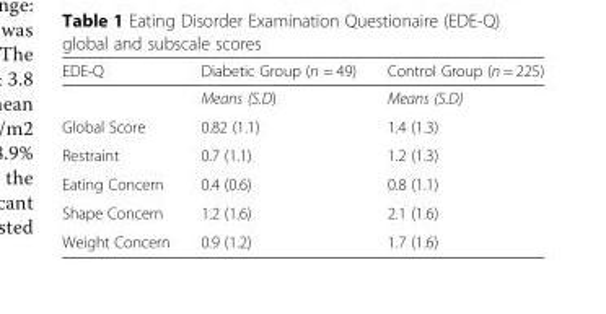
<table><thead><tr><td>EDE-Q</td><td>Diabetic Group (n = 49)</td><td>Control Group (n = 225)</td></tr></thead><tbody><tr><td></td><td>Means (S.D)</td><td>Means (S.D)</td></tr><tr><td>Global Score</td><td>0.82 (1.1)</td><td>1.4 (1.3)</td></tr><tr><td>Restraint</td><td>0.7 (1.1)</td><td>1.2 (1.3)</td></tr><tr><td>Eating Concern</td><td>0.4 (0.6)</td><td>0.8 (1.1)</td></tr><tr><td>Shape Concern</td><td>1.2 (1.6)</td><td>2.1 (1.6)</td></tr><tr><td>Weight Concern</td><td>0.9 (1.2)</td><td>1.7 (1.6)</td></tr></tbody></table>